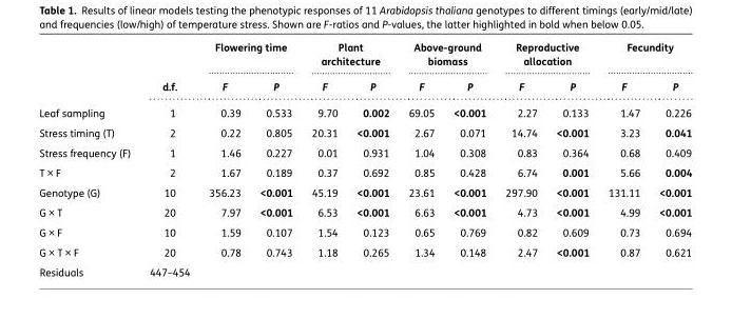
<table><thead><tr><td rowspan="2"></td><td rowspan="2">d.f.</td><td colspan="2">Flowering time</td><td colspan="2">Plant architecture</td><td colspan="2">Above-ground biomass</td><td colspan="2">Reproductive allocation</td><td colspan="2">Fecundity</td></tr><tr><td>F</td><td>P</td><td>F</td><td>P</td><td>F</td><td>P</td><td>F</td><td>P</td><td>F</td><td>P</td></tr></thead><tbody><tr><td>Leaf sampling</td><td>1</td><td>0.39</td><td>0.533</td><td>9.70</td><td>0.002</td><td>69.05</td><td>&lt;0.001</td><td>2.27</td><td>0.133</td><td>1.47</td><td>0.226</td></tr><tr><td>Stress timing (T)</td><td>2</td><td>0.22</td><td>0.805</td><td>20.31</td><td>&lt;0.001</td><td>2.67</td><td>0.071</td><td>14.74</td><td>&lt;0.001</td><td>3.23</td><td>0.041</td></tr><tr><td>Stress frequency (F)</td><td>1</td><td>1.46</td><td>0.227</td><td>0.01</td><td>0.931</td><td>1.04</td><td>0.308</td><td>0.83</td><td>0.364</td><td>0.68</td><td>0.409</td></tr><tr><td>T × F</td><td>2</td><td>1.67</td><td>0.189</td><td>0.37</td><td>0.692</td><td>0.85</td><td>0.428</td><td>6.74</td><td>0.001</td><td>5.66</td><td>0.004</td></tr><tr><td>Genotype (G)</td><td>10</td><td>356.23</td><td>&lt;0.001</td><td>45.19</td><td>&lt;0.001</td><td>23.61</td><td>&lt;0.001</td><td>297.90</td><td>&lt;0.001</td><td>131.11</td><td>&lt;0.001</td></tr><tr><td>G × T</td><td>20</td><td>7.97</td><td>&lt;0.001</td><td>6.53</td><td>&lt;0.001</td><td>6.63</td><td>&lt;0.001</td><td>4.73</td><td>&lt;0.001</td><td>4.99</td><td>&lt;0.001</td></tr><tr><td>G × F</td><td>10</td><td>1.59</td><td>0.107</td><td>1.54</td><td>0.123</td><td>0.65</td><td>0.769</td><td>0.82</td><td>0.609</td><td>0.73</td><td>0.694</td></tr><tr><td>G × T × F</td><td>20</td><td>0.78</td><td>0.743</td><td>1.18</td><td>0.265</td><td>1.34</td><td>0.148</td><td>2.47</td><td>&lt;0.001</td><td>0.87</td><td>0.621</td></tr><tr><td>Residuals</td><td>447–454</td><td></td><td></td><td></td><td></td><td></td><td></td><td></td><td></td><td></td><td></td></tr></tbody></table>